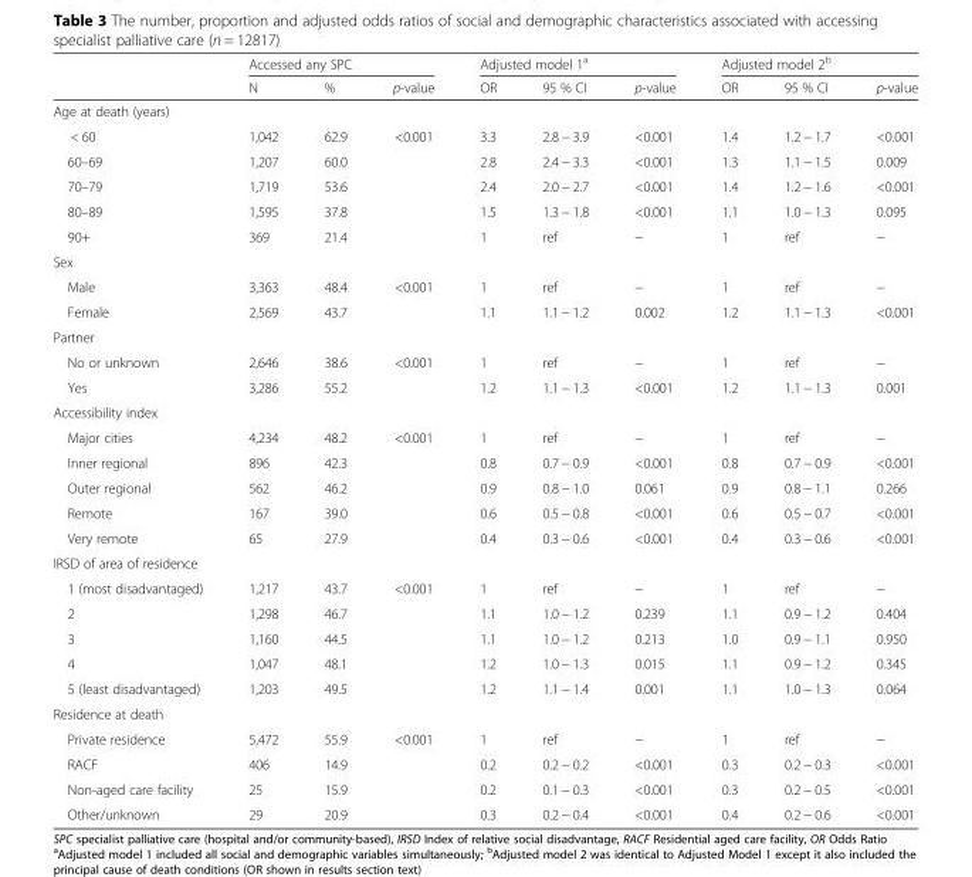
<table><thead><tr><td rowspan="2"></td><td colspan="3">Accessed any SPC</td><td colspan="3">Adjusted model 1<sup>a</sup></td><td colspan="3">Adjusted model 2<sup>b</sup></td></tr><tr><td>N</td><td>%</td><td>p-value</td><td>OR</td><td>95 % CI</td><td>p-value</td><td>OR</td><td>95 % CI</td><td>p-value</td></tr></thead><tbody><tr><td colspan="10">Age at death (years)</td></tr><tr><td>&lt; 60</td><td>1,042</td><td>62.9</td><td rowspan="5">&lt;0.001</td><td>3.3</td><td>2.8 − 3.9</td><td>&lt;0.001</td><td>1.4</td><td>1.2 − 1.7</td><td>&lt;0.001</td></tr><tr><td>60–69</td><td>1,207</td><td>60.0</td><td>2.8</td><td>2.4 − 3.3</td><td>&lt;0.001</td><td>1.3</td><td>1.1 − 1.5</td><td>0.009</td></tr><tr><td>70–79</td><td>1,719</td><td>53.6</td><td>2.4</td><td>2.0 − 2.7</td><td>&lt;0.001</td><td>1.4</td><td>1.2 − 1.6</td><td>&lt;0.001</td></tr><tr><td>80–89</td><td>1,595</td><td>37.8</td><td>1.5</td><td>1.3 − 1.8</td><td>&lt;0.001</td><td>1.1</td><td>1.0 − 1.3</td><td>0.095</td></tr><tr><td>90+</td><td>369</td><td>21.4</td><td>1</td><td>ref</td><td>−</td><td>1</td><td>ref</td><td>−</td></tr><tr><td colspan="10">Sex</td></tr><tr><td>Male</td><td>3,363</td><td>48.4</td><td rowspan="2">&lt;0.001</td><td>1</td><td>ref</td><td>−</td><td>1</td><td>ref</td><td>−</td></tr><tr><td>Female</td><td>2,569</td><td>43.7</td><td>1.1</td><td>1.1 − 1.2</td><td>0.002</td><td>1.2</td><td>1.1 − 1.3</td><td>&lt;0.001</td></tr><tr><td colspan="10">Partner</td></tr><tr><td>No or unknown</td><td>2,646</td><td>38.6</td><td rowspan="2">&lt;0.001</td><td>1</td><td>ref</td><td>−</td><td>1</td><td>ref</td><td>−</td></tr><tr><td>Yes</td><td>3,286</td><td>55.2</td><td>1.2</td><td>1.1 − 1.3</td><td>&lt;0.001</td><td>1.2</td><td>1.1 − 1.3</td><td>0.001</td></tr><tr><td colspan="10">Accessibility index</td></tr><tr><td>Major cities</td><td>4,234</td><td>48.2</td><td rowspan="5">&lt;0.001</td><td>1</td><td>ref</td><td>−</td><td>1</td><td>ref</td><td>−</td></tr><tr><td>Inner regional</td><td>896</td><td>42.3</td><td>0.8</td><td>0.7 − 0.9</td><td>&lt;0.001</td><td>0.8</td><td>0.7 − 0.9</td><td>&lt;0.001</td></tr><tr><td>Outer regional</td><td>562</td><td>46.2</td><td>0.9</td><td>0.8 − 1.0</td><td>0.061</td><td>0.9</td><td>0.8 − 1.1</td><td>0.266</td></tr><tr><td>Remote</td><td>167</td><td>39.0</td><td>0.6</td><td>0.5 − 0.8</td><td>&lt;0.001</td><td>0.6</td><td>0.5 − 0.7</td><td>&lt;0.001</td></tr><tr><td>Very remote</td><td>65</td><td>27.9</td><td>0.4</td><td>0.3 − 0.6</td><td>&lt;0.001</td><td>0.4</td><td>0.3 − 0.6</td><td>&lt;0.001</td></tr><tr><td colspan="10">IRSD of area of residence</td></tr><tr><td>1 (most disadvantaged)</td><td>1,217</td><td>43.7</td><td rowspan="5">&lt;0.001</td><td>1</td><td>ref</td><td>−</td><td>1</td><td>ref</td><td>−</td></tr><tr><td>2</td><td>1,298</td><td>46.7</td><td>1.1</td><td>1.0 − 1.2</td><td>0.239</td><td>1.1</td><td>0.9 − 1.2</td><td>0.404</td></tr><tr><td>3</td><td>1,160</td><td>44.5</td><td>1.1</td><td>1.0 − 1.2</td><td>0.213</td><td>1.0</td><td>0.9 − 1.1</td><td>0.950</td></tr><tr><td>4</td><td>1,047</td><td>48.1</td><td>1.2</td><td>1.0 − 1.3</td><td>0.015</td><td>1.1</td><td>0.9 − 1.2</td><td>0.345</td></tr><tr><td>5 (least disadvantaged)</td><td>1,203</td><td>49.5</td><td>1.2</td><td>1.1 − 1.4</td><td>0.001</td><td>1.1</td><td>1.0 − 1.3</td><td>0.064</td></tr><tr><td colspan="10">Residence at death</td></tr><tr><td>Private residence</td><td>5,472</td><td>55.9</td><td rowspan="4">&lt;0.001</td><td>1</td><td>ref</td><td>−</td><td>1</td><td>ref</td><td>−</td></tr><tr><td>RACF</td><td>406</td><td>14.9</td><td>0.2</td><td>0.2 − 0.2</td><td>&lt;0.001</td><td>0.3</td><td>0.2 − 0.3</td><td>&lt;0.001</td></tr><tr><td>Non-aged care facility</td><td>25</td><td>15.9</td><td>0.2</td><td>0.1 − 0.3</td><td>&lt;0.001</td><td>0.3</td><td>0.2 − 0.5</td><td>&lt;0.001</td></tr><tr><td>Other/unknown</td><td>29</td><td>20.9</td><td>0.3</td><td>0.2 − 0.4</td><td>&lt;0.001</td><td>0.4</td><td>0.2 − 0.6</td><td>&lt;0.001</td></tr></tbody></table>